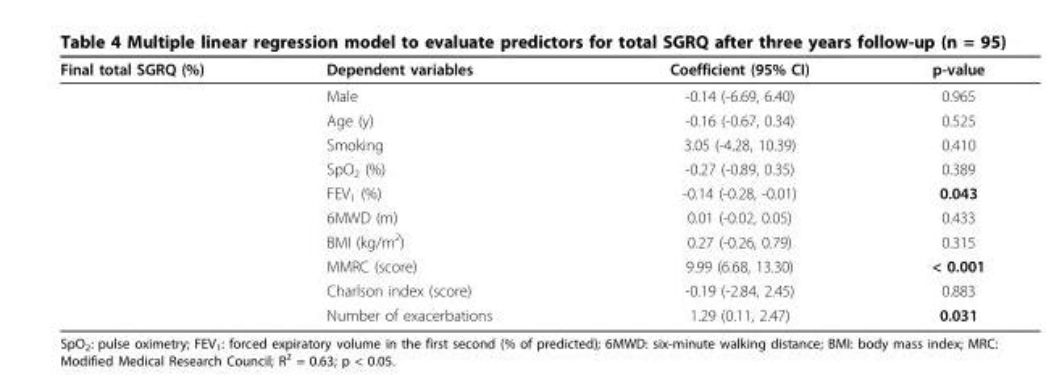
<table><thead><tr><td>Final total SGRQ (%)</td><td>Dependent variables</td><td>Coefficient (95% CI)</td><td>p-value</td></tr></thead><tbody><tr><td></td><td>Male</td><td>-0.14 (-6.69, 6.40)</td><td>0.965</td></tr><tr><td></td><td>Age (y)</td><td>-0.16 (-0.67, 0.34)</td><td>0.525</td></tr><tr><td></td><td>Smoking</td><td>3.05 (-4.28, 10.39)</td><td>0.410</td></tr><tr><td></td><td>SpO<sub>2</sub> (%)</td><td>-0.27 (-0.89, 0.35)</td><td>0.389</td></tr><tr><td></td><td>FEV<sub>1</sub> (%)</td><td>-0.14 (-0.28, -0.01)</td><td>0.043</td></tr><tr><td></td><td>6MWD (m)</td><td>0.01 (-0.02, 0.05)</td><td>0.433</td></tr><tr><td></td><td>BMI (kg/m<sup>2</sup>)</td><td>0.27 (-0.26, 0.79)</td><td>0.315</td></tr><tr><td></td><td>MMRC (score)</td><td>9.99 (6.68, 13.30)</td><td>&lt; 0.001</td></tr><tr><td></td><td>Charlson index (score)</td><td>-0.19 (-2.84, 2.45)</td><td>0.883</td></tr><tr><td></td><td>Number of exacerbations</td><td>1.29 (0.11, 2.47)</td><td>0.031</td></tr></tbody></table>